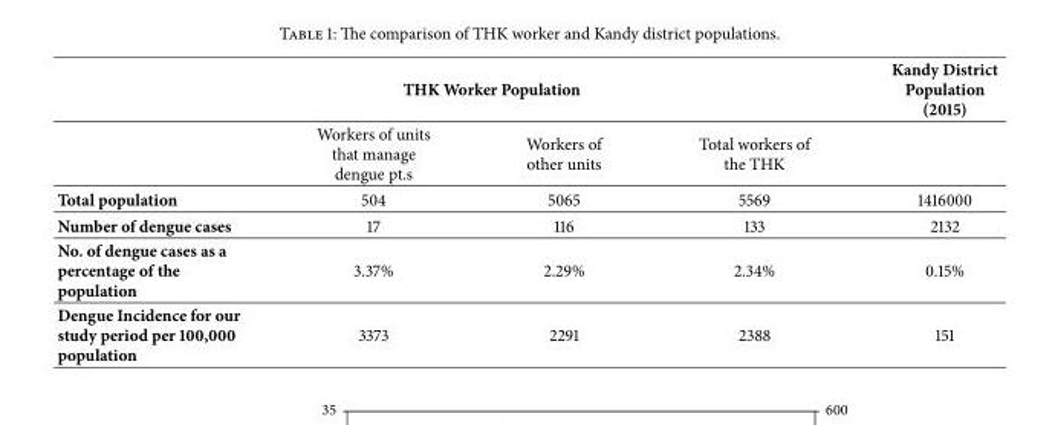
<table><thead><tr><td rowspan="2"></td><td colspan="3">THK Worker Population</td><td rowspan="2">Kandy District Population (2015)</td></tr><tr><td>Workers of units that manage dengue pt.s</td><td>Workers of other units</td><td>Total workers of the THK</td></tr></thead><tbody><tr><td>Total population</td><td>504</td><td>5065</td><td>5569</td><td>1416000</td></tr><tr><td>Number of dengue cases</td><td>17</td><td>116</td><td>133</td><td>2132</td></tr><tr><td>No. of dengue cases as a percentage of the population</td><td>3.37%</td><td>2.29%</td><td>2.34%</td><td>0.15%</td></tr><tr><td>Dengue Incidence for our study period per 100,000 population</td><td>3373</td><td>2291</td><td>2388</td><td>151</td></tr></tbody></table>